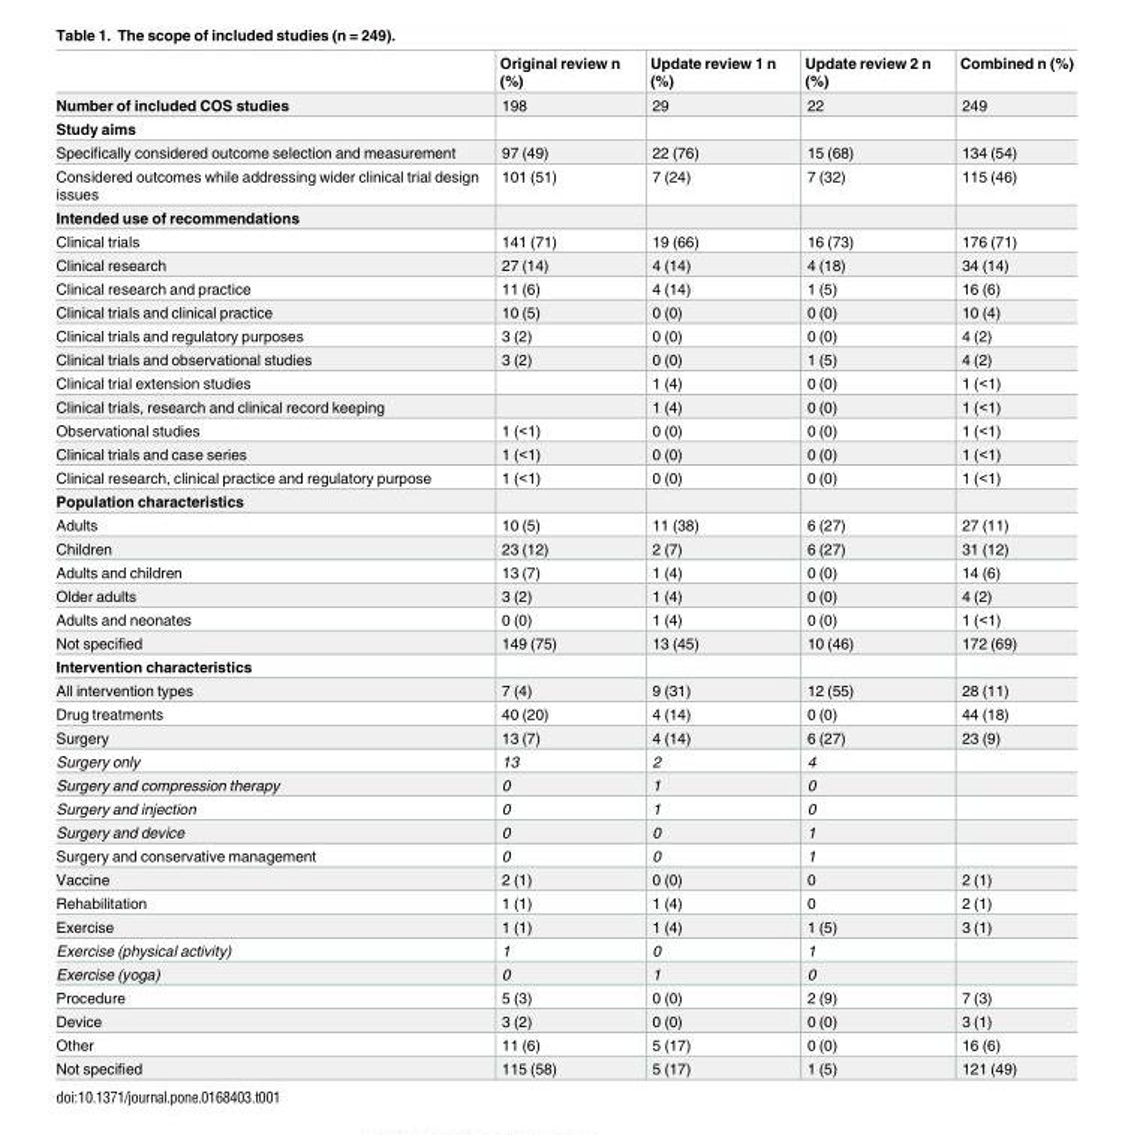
<table><thead><tr><td></td><td>Original review n (%)</td><td>Update review 1 n (%)</td><td>Update review 2 n (%)</td><td>Combined n (%)</td></tr></thead><tbody><tr><td>Number of included COS studies</td><td>198</td><td>29</td><td>22</td><td>249</td></tr><tr><td colspan="5">Study aims</td></tr><tr><td>Specifically considered outcome selection and measurement</td><td>97 (49)</td><td>22 (76)</td><td>15 (68)</td><td>134 (54)</td></tr><tr><td>Considered outcomes while addressing wider clinical trial design issues</td><td>101 (51)</td><td>7 (24)</td><td>7 (32)</td><td>115 (46)</td></tr><tr><td colspan="5">Intended use of recommendations</td></tr><tr><td>Clinical trials</td><td>141 (71)</td><td>19 (66)</td><td>16 (73)</td><td>176 (71)</td></tr><tr><td>Clinical research</td><td>27 (14)</td><td>4 (14)</td><td>4 (18)</td><td>34 (14)</td></tr><tr><td>Clinical research and practice</td><td>11 (6)</td><td>4 (14)</td><td>1 (5)</td><td>16 (6)</td></tr><tr><td>Clinical trials and clinical practice</td><td>10 (5)</td><td>0 (0)</td><td>0 (0)</td><td>10 (4)</td></tr><tr><td>Clinical trials and regulatory purposes</td><td>3 (2)</td><td>0 (0)</td><td>0 (0)</td><td>4 (2)</td></tr><tr><td>Clinical trials and observational studies</td><td>3 (2)</td><td>0 (0)</td><td>1 (5)</td><td>4 (2)</td></tr><tr><td>Clinical trial extension studies</td><td></td><td>1 (4)</td><td>0 (0)</td><td>1 (&lt;1)</td></tr><tr><td>Clinical trials, research and clinical record keeping</td><td></td><td>1 (4)</td><td>0 (0)</td><td>1 (&lt;1)</td></tr><tr><td>Observational studies</td><td>1 (&lt;1)</td><td>0 (0)</td><td>0 (0)</td><td>1 (&lt;1)</td></tr><tr><td>Clinical trials and case series</td><td>1 (&lt;1)</td><td>0 (0)</td><td>0 (0)</td><td>1 (&lt;1)</td></tr><tr><td>Clinical research, clinical practice and regulatory purpose</td><td>1 (&lt;1)</td><td>0 (0)</td><td>0 (0)</td><td>1 (&lt;1)</td></tr><tr><td colspan="5">Population characteristics</td></tr><tr><td>Adults</td><td>10 (5)</td><td>11 (38)</td><td>6 (27)</td><td>27 (11)</td></tr><tr><td>Children</td><td>23 (12)</td><td>2 (7)</td><td>6 (27)</td><td>31 (12)</td></tr><tr><td>Adults and children</td><td>13 (7)</td><td>1 (4)</td><td>0 (0)</td><td>14 (6)</td></tr><tr><td>Older adults</td><td>3 (2)</td><td>1 (4)</td><td>0 (0)</td><td>4 (2)</td></tr><tr><td>Adults and neonates</td><td>0 (0)</td><td>1 (4)</td><td>0 (0)</td><td>1 (&lt;1)</td></tr><tr><td>Not specified</td><td>149 (75)</td><td>13 (45)</td><td>10 (46)</td><td>172 (69)</td></tr><tr><td colspan="5">Intervention characteristics</td></tr><tr><td>All intervention types</td><td>7 (4)</td><td>9 (31)</td><td>12 (55)</td><td>28 (11)</td></tr><tr><td>Drug treatments</td><td>40 (20)</td><td>4 (14)</td><td>0 (0)</td><td>44 (18)</td></tr><tr><td>Surgery</td><td>13 (7)</td><td>4 (14)</td><td>6 (27)</td><td>23 (9)</td></tr><tr><td>Surgery only</td><td>13</td><td>2</td><td>4</td><td></td></tr><tr><td>Surgery and compression therapy</td><td>0</td><td>1</td><td>0</td><td></td></tr><tr><td>Surgery and injection</td><td>0</td><td>1</td><td>0</td><td></td></tr><tr><td>Surgery and device</td><td>0</td><td>0</td><td>1</td><td></td></tr><tr><td>Surgery and conservative management</td><td>0</td><td>0</td><td>1</td><td></td></tr><tr><td>Vaccine</td><td>2 (1)</td><td>0 (0)</td><td>0</td><td>2 (1)</td></tr><tr><td>Rehabilitation</td><td>1 (1)</td><td>1 (4)</td><td>0</td><td>2 (1)</td></tr><tr><td>Exercise</td><td>1 (1)</td><td>1 (4)</td><td>1 (5)</td><td>3 (1)</td></tr><tr><td>Exercise (physical activity)</td><td>1</td><td>0</td><td>1</td><td></td></tr><tr><td>Exercise (yoga)</td><td>0</td><td>1</td><td>0</td><td></td></tr><tr><td>Procedure</td><td>5 (3)</td><td>0 (0)</td><td>2 (9)</td><td>7 (3)</td></tr><tr><td>Device</td><td>3 (2)</td><td>0 (0)</td><td>0 (0)</td><td>3 (1)</td></tr><tr><td>Other</td><td>11 (6)</td><td>5 (17)</td><td>0 (0)</td><td>16 (6)</td></tr><tr><td>Not specified</td><td>115 (58)</td><td>5 (17)</td><td>1 (5)</td><td>121 (49)</td></tr></tbody></table>